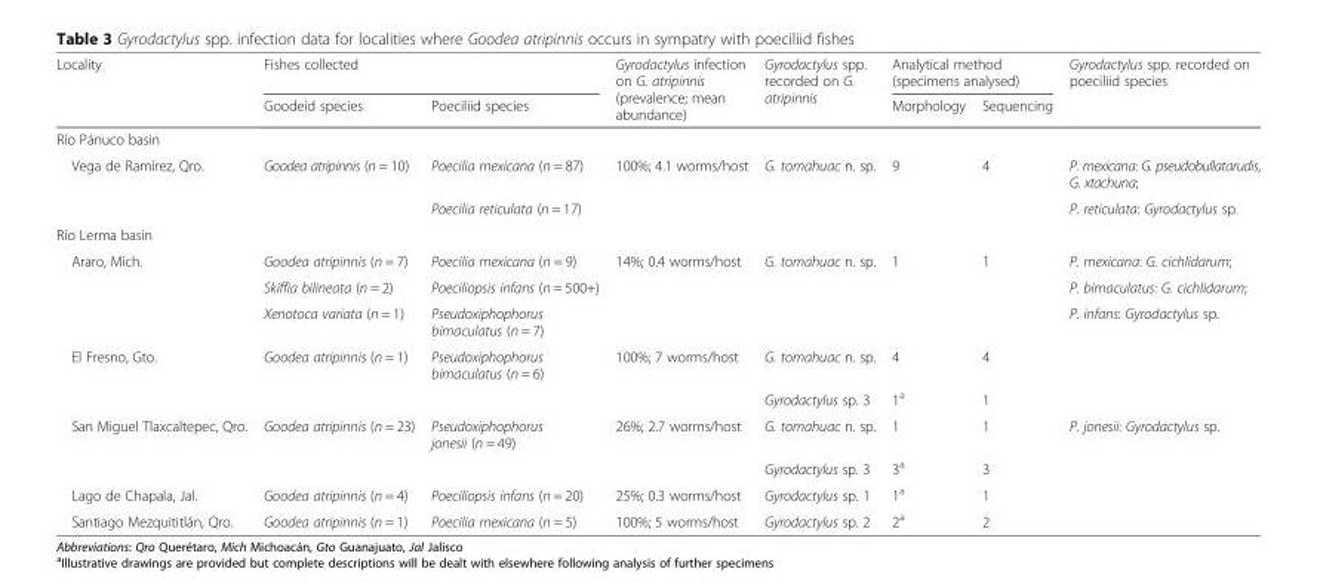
<table><thead><tr><td rowspan="2">Locality</td><td colspan="2">Fishes collected</td><td rowspan="2">Gyrodactylus infection on G. atripinnis (prevalence; mean abundance)</td><td rowspan="2">Gyrodactylus spp. recorded on G. atripinnis</td><td colspan="2">Analytical method (specimens analysed)</td><td rowspan="2">Gyrodactylus spp. recorded on poeciliid species</td></tr><tr><td>Goodeid species</td><td>Poeciliid species</td><td>Morphology</td><td>Sequencing</td></tr></thead><tbody><tr><td colspan="8">Río Pánuco basin</td></tr><tr><td rowspan="2">Vega de Ramírez, Qro.</td><td>Goodea atripinnis (n = 10)</td><td>Poecilia mexicana (n = 87)</td><td>100%; 4.1 worms/host</td><td>G. tomahuac n. sp.</td><td>9</td><td>4</td><td>P. mexicana: G. pseudobullatarudis, G. xtachuna;</td></tr><tr><td></td><td>Poecilia reticulata (n = 17)</td><td></td><td></td><td></td><td></td><td>P. reticulata: Gyrodactylus sp.</td></tr><tr><td colspan="8">Río Lerma basin</td></tr><tr><td rowspan="3">Araro, Mich.</td><td>Goodea atripinnis (n = 7)</td><td>Poecilia mexicana (n = 9)</td><td>14%; 0.4 worms/host</td><td>G. tomahuac n. sp.</td><td>1</td><td>1</td><td>P. mexicana: G. cichlidarum;</td></tr><tr><td>Skiffia bilineata (n = 2)</td><td>Poeciliopsis infans (n = 500+)</td><td></td><td></td><td></td><td></td><td>P. bimaculatus: G. cichlidarum;</td></tr><tr><td>Xenotoca variata (n = 1)</td><td>Pseudoxiphophorus bimaculatus (n = 7)</td><td></td><td></td><td></td><td></td><td>P. infans: Gyrodactylus sp.</td></tr><tr><td rowspan="2">El Fresno, Gto.</td><td>Goodea atripinnis (n = 1)</td><td>Pseudoxiphophorus bimaculatus (n = 6)</td><td>100%; 7 worms/host</td><td>G. tomahuac n. sp.</td><td>4</td><td>4</td><td></td></tr><tr><td></td><td></td><td></td><td>Gyrodactylus sp. 3</td><td>1<sup>a</sup></td><td>1</td><td></td></tr><tr><td rowspan="2">San Miguel Tlaxcaltepec, Qro.</td><td>Goodea atripinnis (n = 23)</td><td>Pseudoxiphophorus jonesii (n = 49)</td><td>26%; 2.7 worms/host</td><td>G. tomahuac n. sp.</td><td>1</td><td>1</td><td>P. jonesii: Gyrodactylus sp.</td></tr><tr><td></td><td></td><td></td><td>Gyrodactylus sp. 3</td><td>3<sup>a</sup></td><td>3</td><td></td></tr><tr><td>Lago de Chapala, Jal.</td><td>Goodea atripinnis (n = 4)</td><td>Poeciliopsis infans (n = 20)</td><td>25%; 0.3 worms/host</td><td>Gyrodactylus sp. 1</td><td>1<sup>a</sup></td><td>1</td><td></td></tr><tr><td>Santiago Mezquititlán, Qro.</td><td>Goodea atripinnis (n = 1)</td><td>Poecilia mexicana (n = 5)</td><td>100%; 5 worms/host</td><td>Gyrodactylus sp. 2</td><td>2<sup>a</sup></td><td>2</td><td></td></tr></tbody></table>